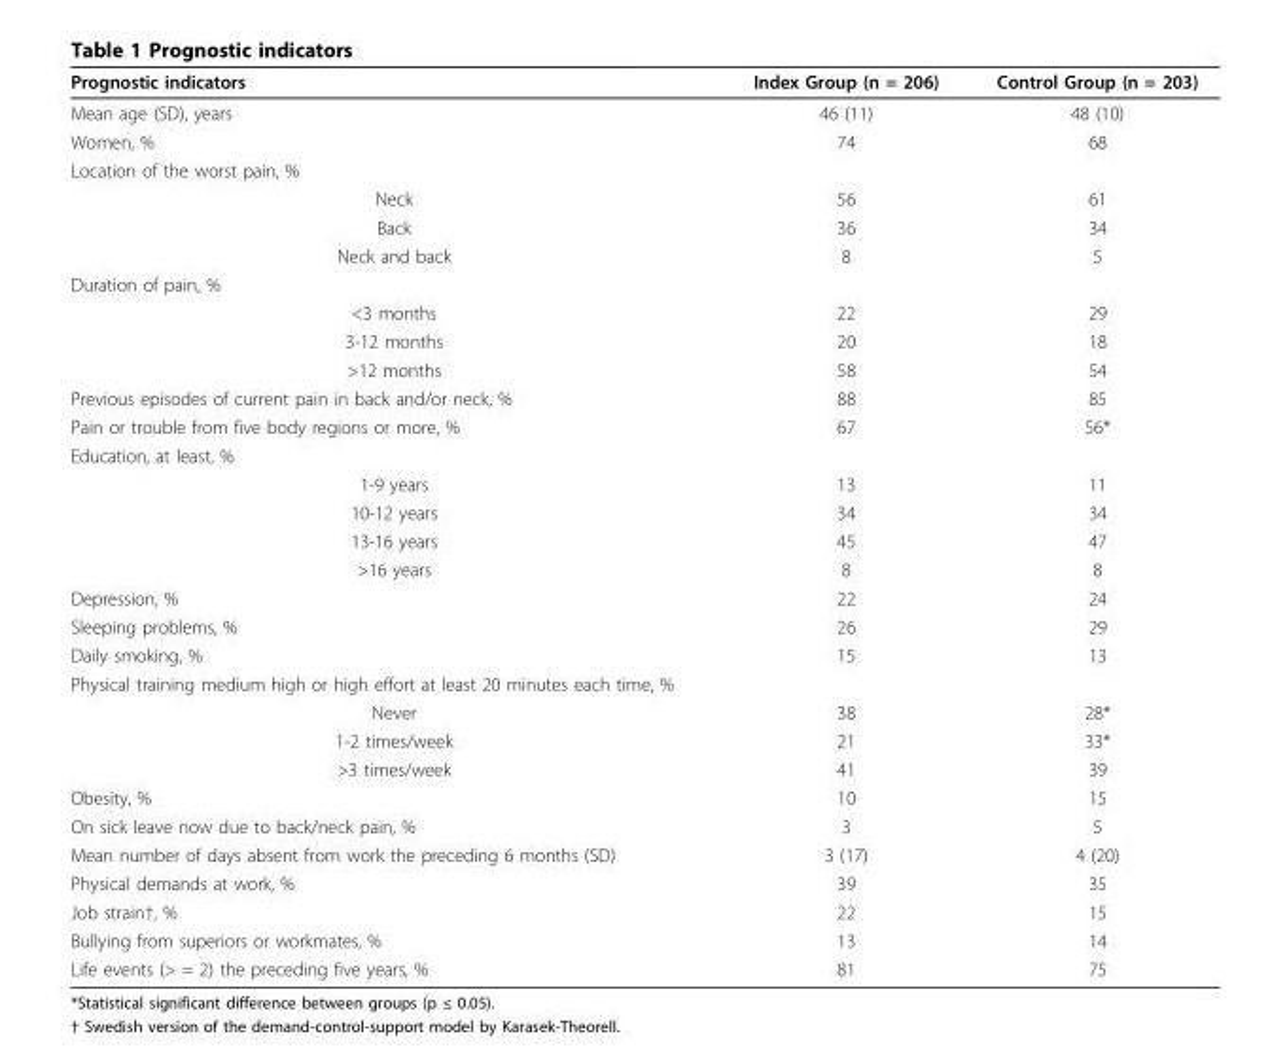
<table><thead><tr><td>Prognostic indicators</td><td>Index Group (n = 206)</td><td>Control Group (n = 203)</td></tr></thead><tbody><tr><td>Mean age (SD), years</td><td>46 (11)</td><td>48 (10)</td></tr><tr><td>Women, %</td><td>74</td><td>68</td></tr><tr><td colspan="3">Location of the worst pain, %</td></tr><tr><td>Neck</td><td>56</td><td>61</td></tr><tr><td>Back</td><td>36</td><td>34</td></tr><tr><td>Neck and back</td><td>8</td><td>5</td></tr><tr><td colspan="3">Duration of pain, %</td></tr><tr><td>&lt;3 months</td><td>22</td><td>29</td></tr><tr><td>3-12 months</td><td>20</td><td>18</td></tr><tr><td>&gt;12 months</td><td>58</td><td>54</td></tr><tr><td>Previous episodes of current pain in back and/or neck, %</td><td>88</td><td>85</td></tr><tr><td>Pain or trouble from five body regions or more, %</td><td>67</td><td>56*</td></tr><tr><td colspan="3">Education, at least, %</td></tr><tr><td>1-9 years</td><td>13</td><td>11</td></tr><tr><td>10-12 years</td><td>34</td><td>34</td></tr><tr><td>13-16 years</td><td>45</td><td>47</td></tr><tr><td>&gt;16 years</td><td>8</td><td>8</td></tr><tr><td>Depression, %</td><td>22</td><td>24</td></tr><tr><td>Sleeping problems, %</td><td>26</td><td>29</td></tr><tr><td>Daily smoking, %</td><td>15</td><td>13</td></tr><tr><td colspan="3">Physical training medium high or high effort at least 20 minutes each time, %</td></tr><tr><td>Never</td><td>38</td><td>28*</td></tr><tr><td>1-2 times/week</td><td>21</td><td>33*</td></tr><tr><td>&gt;3 times/week</td><td>41</td><td>39</td></tr><tr><td>Obesity, %</td><td>10</td><td>15</td></tr><tr><td>On sick leave now due to back/neck pain, %</td><td>3</td><td>5</td></tr><tr><td>Mean number of days absent from work the preceding 6 months (SD)</td><td>3 (17)</td><td>4 (20)</td></tr><tr><td>Physical demands at work, %</td><td>39</td><td>35</td></tr><tr><td>Job strain†, %</td><td>22</td><td>15</td></tr><tr><td>Bullying from superiors or workmates, %</td><td>13</td><td>14</td></tr><tr><td>Life events (&gt; = 2) the preceding five years, %</td><td>81</td><td>75</td></tr></tbody></table>